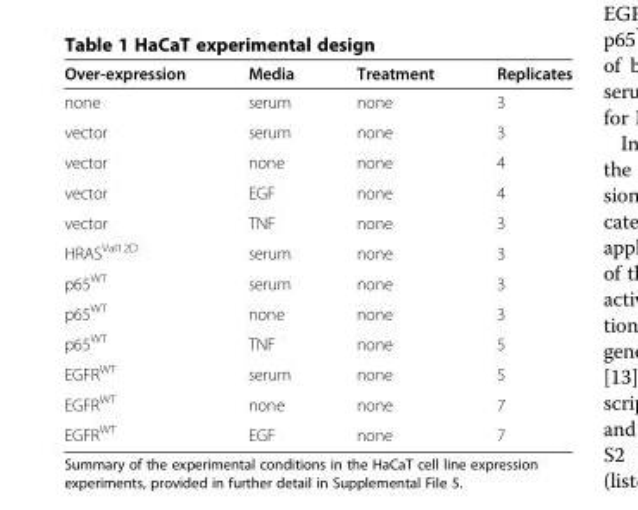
<table><thead><tr><td>Over-expression</td><td>Media</td><td>Treatment</td><td>Replicates</td></tr></thead><tbody><tr><td>none</td><td>serum</td><td>none</td><td>3</td></tr><tr><td>vector</td><td>serum</td><td>none</td><td>3</td></tr><tr><td>vector</td><td>none</td><td>none</td><td>4</td></tr><tr><td>vector</td><td>EGF</td><td>none</td><td>4</td></tr><tr><td>vector</td><td>TNF</td><td>none</td><td>3</td></tr><tr><td>HRAS<sup>Val12D</sup></td><td>serum</td><td>none</td><td>3</td></tr><tr><td>p65<sup>WT</sup></td><td>serum</td><td>none</td><td>3</td></tr><tr><td>p65<sup>WT</sup></td><td>none</td><td>none</td><td>3</td></tr><tr><td>p65<sup>WT</sup></td><td>TNF</td><td>none</td><td>5</td></tr><tr><td>EGFR<sup>WT</sup></td><td>serum</td><td>none</td><td>5</td></tr><tr><td>EGFR<sup>WT</sup></td><td>none</td><td>none</td><td>7</td></tr><tr><td>EGFR<sup>WT</sup></td><td>EGF</td><td>none</td><td>7</td></tr></tbody></table>